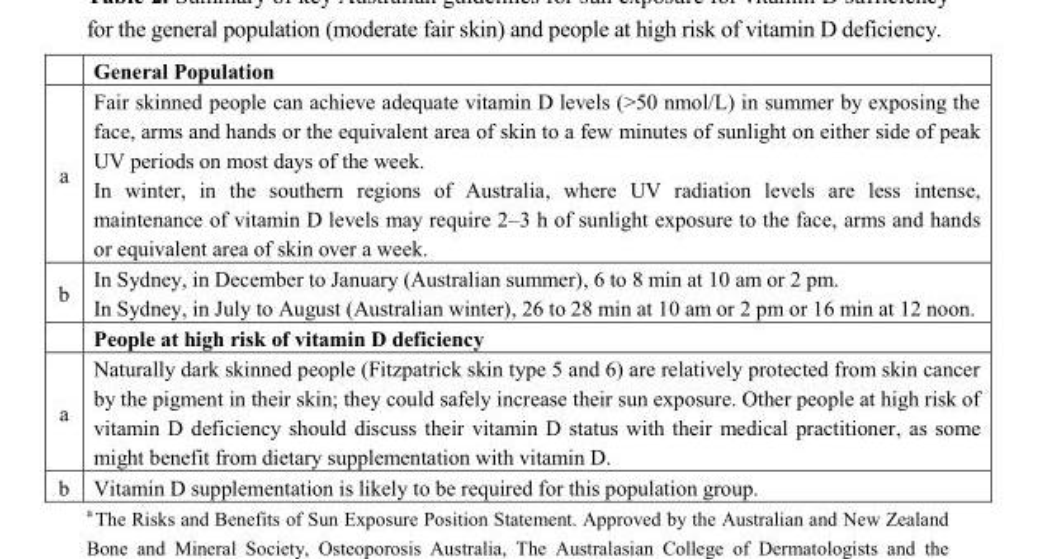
<table><thead><tr><td></td><td>General Population</td></tr></thead><tbody><tr><td>a</td><td>Fair skinned people can achieve adequate vitamin D levels (&gt;50 nmol/L) in summer by exposing the face, arms and hands or the equivalent area of skin to a few minutes of sunlight on either side of peak UV periods on most days of the week. In winter, in the southern regions of Australia, where UV radiation levels are less intense, maintenance of vitamin D levels may require 2–3 h of sunlight exposure to the face, arms and hands or equivalent area of skin over a week.</td></tr><tr><td rowspan="2">b</td><td>In Sydney, in December to January (Australian summer), 6 to 8 min at 10 am or 2 pm. In Sydney, in July to August (Australian winter), 26 to 28 min at 10 am or 2 pm or 16 min at 12 noon.</td></tr><tr><td>People at high risk of vitamin D deficiency</td></tr><tr><td>a</td><td>Naturally dark skinned people (Fitzpatrick skin type 5 and 6) are relatively protected from skin cancer by the pigment in their skin; they could safely increase their sun exposure. Other people at high risk of vitamin D deficiency should discuss their vitamin D status with their medical practitioner, as some might benefit from dietary supplementation with vitamin D.</td></tr><tr><td>b</td><td>Vitamin D supplementation is likely to be required for this population group.</td></tr></tbody></table>